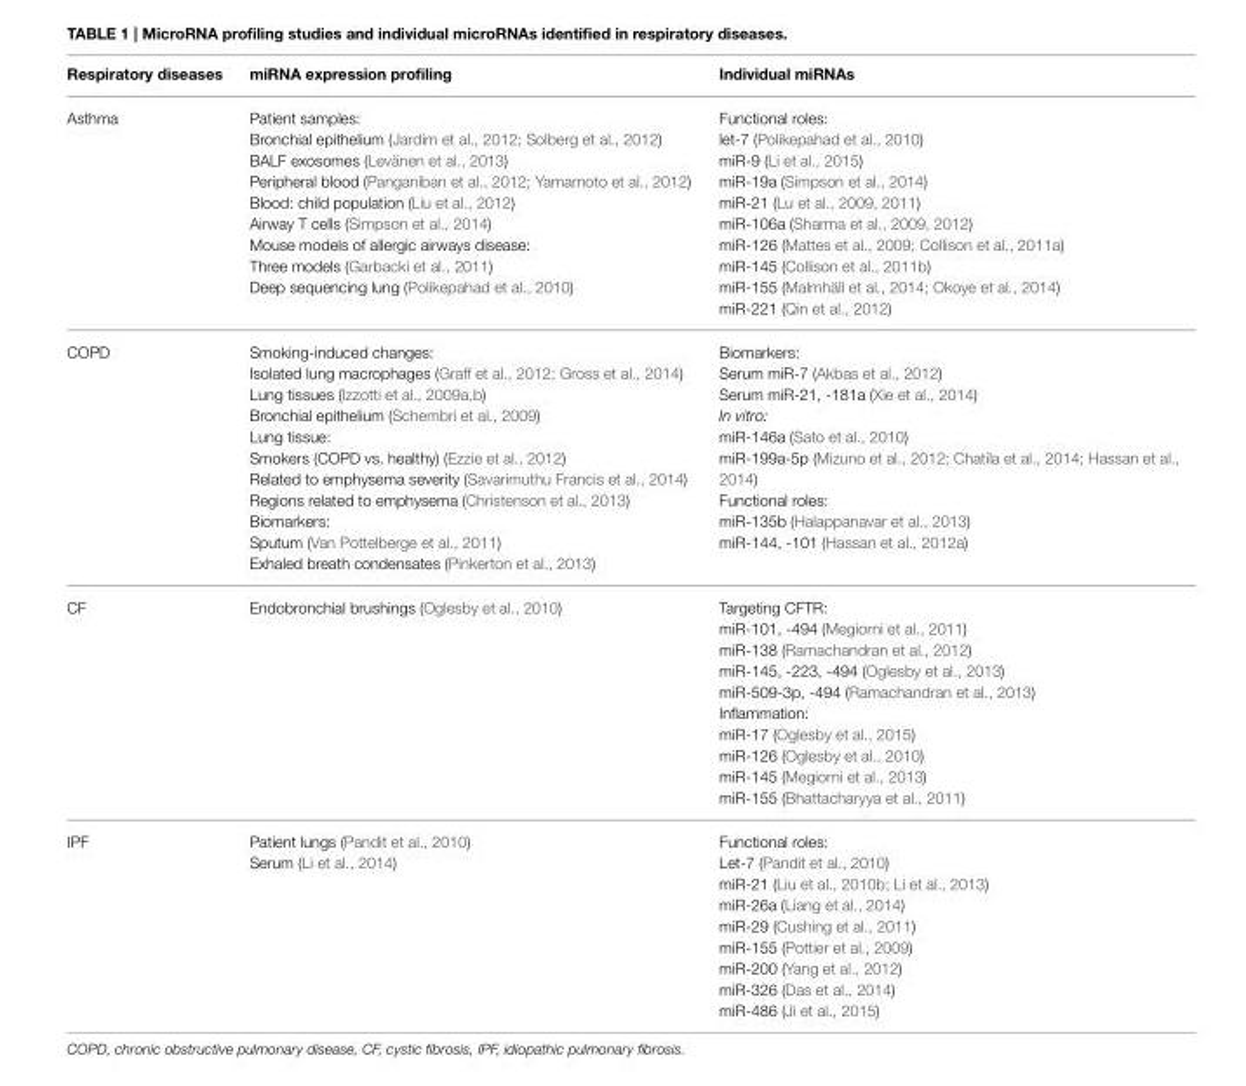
<table><thead><tr><td>Respiratory diseases</td><td>miRNA expression profiling</td><td>Individual miRNAs</td></tr></thead><tbody><tr><td>Asthma</td><td>Patient samples: Bronchial epithelium (Jardim et al., 2012; Solberg et al., 2012) BALF exosomes (Levänen et al., 2013) Peripheral blood (Panganiban et al., 2012; Yamamoto et al., 2012) Blood: child population (Liu et al., 2012) Airway T cells (Simpson et al., 2014) Mouse models of allergic airways disease: Three models (Garbacki et al., 2011) Deep sequencing lung (Polikepahad et al., 2010)</td><td>Functional roles: let-7 (Polikepahad et al., 2010) miR-9 (Li et al., 2015) miR-19a (Simpson et al., 2014) miR-21 (Lu et al., 2009, 2011) miR-106a (Sharma et al., 2009, 2012) miR-126 (Mattes et al., 2009; Collison et al., 2011a) miR-145 (Collison et al., 2011b) miR-155 (Malmhäll et al., 2014; Okoye et al., 2014) miR-221 (Qin et al., 2012)</td></tr><tr><td>COPD</td><td>Smoking-induced changes: Isolated lung macrophages (Graff et al., 2012; Gross et al., 2014) Lung tissues (Izzotti et al., 2009a,b) Bronchial epithelium (Schembri et al., 2009) Lung tissue: Smokers (COPD vs. healthy) (Ezzie et al., 2012) Related to emphysema severity (Savarimuthu Francis et al., 2014) Regions related to emphysema (Christenson et al., 2013) Biomarkers: Sputum (Van Pottelberge et al., 2011) Exhaled breath condensates (Pinkerton et al., 2013)</td><td>Biomarkers: Serum miR-7 (Akbas et al., 2012) Serum miR-21, -181a (Xie et al., 2014) In vitro: miR-146a (Sato et al., 2010) miR-199a-5p (Mizuno et al., 2012; Chatila et al., 2014; Hassan et al., 2014) Functional roles: miR-135b (Halappanavar et al., 2013) miR-144, -101 (Hassan et al., 2012a)</td></tr><tr><td>CF</td><td>Endobronchial brushings (Oglesby et al., 2010)</td><td>Targeting CFTR: miR-101, -494 (Megiorni et al., 2011) miR-138 (Ramachandran et al., 2012) miR-145, -223, -494 (Oglesby et al., 2013) miR-509-3p, -494 (Ramachandran et al., 2013) Inflammation: miR-17 (Oglesby et al., 2015) miR-126 (Oglesby et al., 2010) miR-145 (Megiorni et al., 2013) miR-155 (Bhattacharyya et al., 2011)</td></tr><tr><td>IPF</td><td>Patient lungs (Pandit et al., 2010) Serum (Li et al., 2014)</td><td>Functional roles: Let-7 (Pandit et al., 2010) miR-21 (Liu et al., 2010b; Li et al., 2013) miR-26a (Liang et al., 2014) miR-29 (Cushing et al., 2011) miR-155 (Pottier et al., 2009) miR-200 (Yang et al., 2012) miR-326 (Das et al., 2014) miR-486 (Ji et al., 2015)</td></tr></tbody></table>